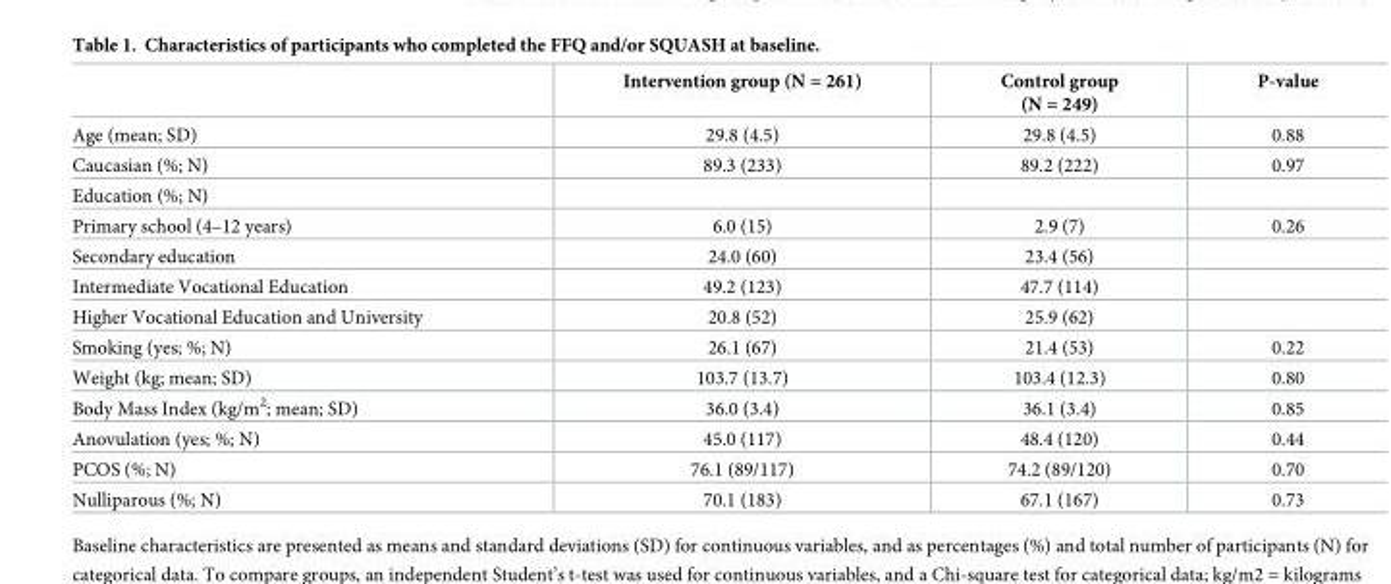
<table><thead><tr><td></td><td>Intervention group (N = 261)</td><td>Control group (N = 249)</td><td>P-value</td></tr></thead><tbody><tr><td>Age (mean; SD)</td><td>29.8 (4.5)</td><td>29.8 (4.5)</td><td>0.88</td></tr><tr><td>Caucasian (%; N)</td><td>89.3 (233)</td><td>89.2 (222)</td><td>0.97</td></tr><tr><td colspan="4">Education (%; N)</td></tr><tr><td>Primary school (4–12 years)</td><td>6.0 (15)</td><td>2.9 (7)</td><td>0.26</td></tr><tr><td>Secondary education</td><td>24.0 (60)</td><td>23.4 (56)</td><td></td></tr><tr><td>Intermediate Vocational Education</td><td>49.2 (123)</td><td>47.7 (114)</td><td></td></tr><tr><td>Higher Vocational Education and University</td><td>20.8 (52)</td><td>25.9 (62)</td><td></td></tr><tr><td>Smoking (yes; %; N)</td><td>26.1 (67)</td><td>21.4 (53)</td><td>0.22</td></tr><tr><td>Weight (kg; mean; SD)</td><td>103.7 (13.7)</td><td>103.4 (12.3)</td><td>0.80</td></tr><tr><td>Body Mass Index (kg/m<sup>2</sup>; mean; SD)</td><td>36.0 (3.4)</td><td>36.1 (3.4)</td><td>0.85</td></tr><tr><td>Anovulation (yes; %; N)</td><td>45.0 (117)</td><td>48.4 (120)</td><td>0.44</td></tr><tr><td>PCOS (%; N)</td><td>76.1 (89/117)</td><td>74.2 (89/120)</td><td>0.70</td></tr><tr><td>Nulliparous (%; N)</td><td>70.1 (183)</td><td>67.1 (167)</td><td>0.73</td></tr></tbody></table>